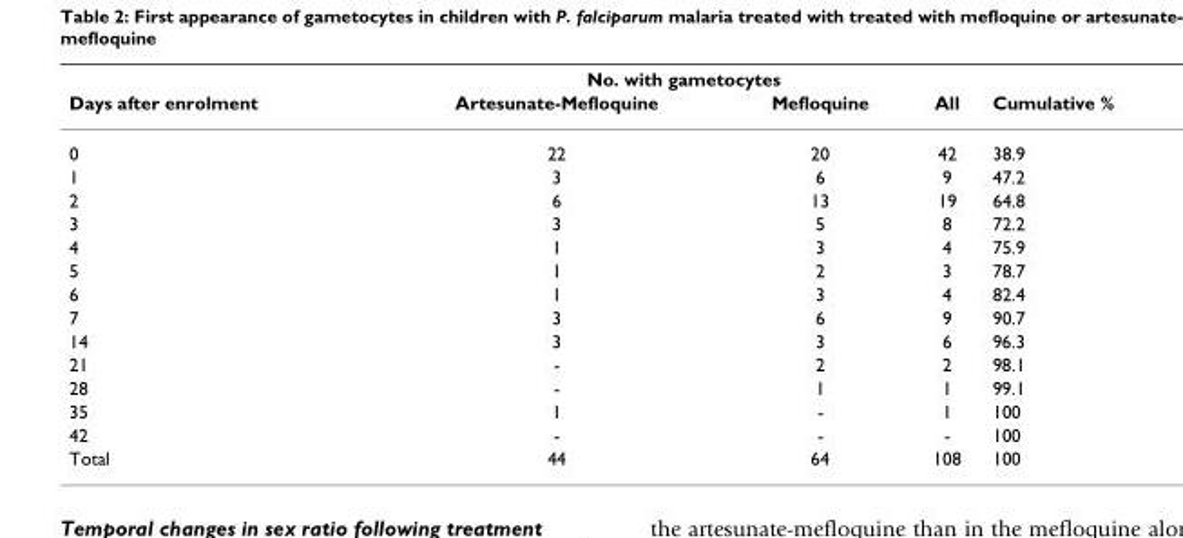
<table><thead><tr><td rowspan="2">Days after enrolment</td><td colspan="3">No. with gametocytes</td><td rowspan="2">Cumulative %</td></tr><tr><td>Artesunate-Mefloquine</td><td>Mefloquine</td><td>All</td></tr></thead><tbody><tr><td>0</td><td>22</td><td>20</td><td>42</td><td>38.9</td></tr><tr><td>1</td><td>3</td><td>6</td><td>9</td><td>47.2</td></tr><tr><td>2</td><td>6</td><td>13</td><td>19</td><td>64.8</td></tr><tr><td>3</td><td>3</td><td>5</td><td>8</td><td>72.2</td></tr><tr><td>4</td><td>1</td><td>3</td><td>4</td><td>75.9</td></tr><tr><td>5</td><td>1</td><td>2</td><td>3</td><td>78.7</td></tr><tr><td>6</td><td>1</td><td>3</td><td>4</td><td>82.4</td></tr><tr><td>7</td><td>3</td><td>6</td><td>9</td><td>90.7</td></tr><tr><td>14</td><td>3</td><td>3</td><td>6</td><td>96.3</td></tr><tr><td>21</td><td>-</td><td>2</td><td>2</td><td>98.1</td></tr><tr><td>28</td><td>-</td><td>1</td><td>1</td><td>99.1</td></tr><tr><td>35</td><td>1</td><td>-</td><td>1</td><td>100</td></tr><tr><td>42</td><td>-</td><td>-</td><td>-</td><td>100</td></tr><tr><td>Total</td><td>44</td><td>64</td><td>108</td><td>100</td></tr></tbody></table>